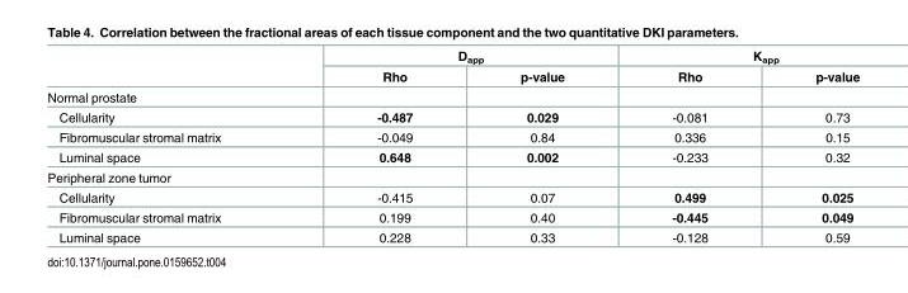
<table><thead><tr><td rowspan="2"></td><td colspan="2">D<sub>app</sub></td><td colspan="2">K<sub>app</sub></td></tr><tr><td>Rho</td><td>p-value</td><td>Rho</td><td>p-value</td></tr></thead><tbody><tr><td colspan="5">Normal prostate</td></tr><tr><td>Cellularity</td><td>-0.487</td><td>0.029</td><td>-0.081</td><td>0.73</td></tr><tr><td>Fibromuscular stromal matrix</td><td>-0.049</td><td>0.84</td><td>0.336</td><td>0.15</td></tr><tr><td>Luminal space</td><td>0.648</td><td>0.002</td><td>-0.233</td><td>0.32</td></tr><tr><td colspan="5">Peripheral zone tumor</td></tr><tr><td>Cellularity</td><td>-0.415</td><td>0.07</td><td>0.499</td><td>0.025</td></tr><tr><td>Fibromuscular stromal matrix</td><td>0.199</td><td>0.40</td><td>-0.445</td><td>0.049</td></tr><tr><td>Luminal space</td><td>0.228</td><td>0.33</td><td>-0.128</td><td>0.59</td></tr></tbody></table>